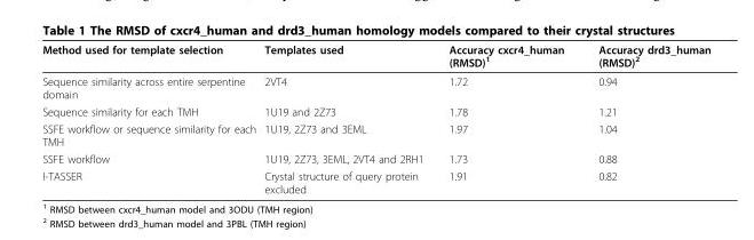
<table><thead><tr><td>Method used for template selection</td><td>Templates used</td><td>Accuracy cxcr4_human (RMSD)<sup>1</sup></td><td>Accuracy drd3_human (RMSD)<sup>2</sup></td></tr></thead><tbody><tr><td>Sequence similarity across entire serpentine domain</td><td>2VT4</td><td>1.72</td><td>0.94</td></tr><tr><td>Sequence similarity for each TMH</td><td>1U19 and 2Z73</td><td>1.78</td><td>1.21</td></tr><tr><td>SSFE workflow or sequence similarity for each TMH</td><td>1U19, 2Z73 and 3EML</td><td>1.97</td><td>1.04</td></tr><tr><td>SSFE workflow</td><td>1U19, 2Z73, 3EML, 2VT4 and 2RH1</td><td>1.73</td><td>0.88</td></tr><tr><td>I-TASSER</td><td>Crystal structure of query protein excluded</td><td>1.91</td><td>0.82</td></tr></tbody></table>